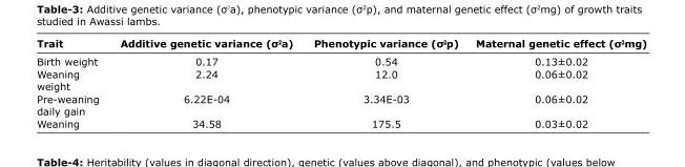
<table><thead><tr><td>Trait</td><td>Additive genetic variance (σ<sup>2</sup>a)</td><td>Phenotypic variance (σ<sup>2</sup>p)</td><td>Maternal genetic effect (σ<sup>2</sup>mg)</td></tr></thead><tbody><tr><td>Birth weight</td><td>0.17</td><td>0.54</td><td>0.13±0.02</td></tr><tr><td>Weaning weight</td><td>2.24</td><td>12.0</td><td>0.06±0.02</td></tr><tr><td>Pre-weaning daily gain</td><td>6.22E-04</td><td>3.34E-03</td><td>0.06±0.02</td></tr><tr><td>Weaning</td><td>34.58</td><td>175.5</td><td>0.03±0.02</td></tr></tbody></table>